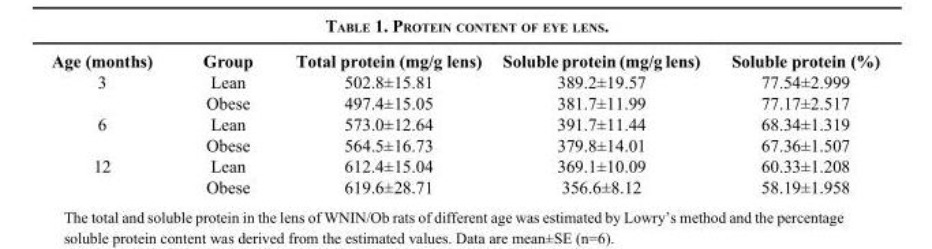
<table><thead><tr><td>Age (months)</td><td>Group</td><td>Total protein (mg/g lens)</td><td>Soluble protein (mg/g lens)</td><td>Soluble protein (%)</td></tr></thead><tbody><tr><td rowspan="2">3</td><td>Lean</td><td>502.8±15.81</td><td>389.2±19.57</td><td>77.54±2.999</td></tr><tr><td>Obese</td><td>497.4±15.05</td><td>381.7±11.99</td><td>77.17±2.517</td></tr><tr><td rowspan="2">6</td><td>Lean</td><td>573.0±12.64</td><td>391.7±11.44</td><td>68.34±1.319</td></tr><tr><td>Obese</td><td>564.5±16.73</td><td>379.8±14.01</td><td>67.36±1.507</td></tr><tr><td rowspan="2">12</td><td>Lean</td><td>612.4±15.04</td><td>369.1±10.09</td><td>60.33±1.208</td></tr><tr><td>Obese</td><td>619.6±28.71</td><td>356.6±8.12</td><td>58.19±1.958</td></tr></tbody></table>